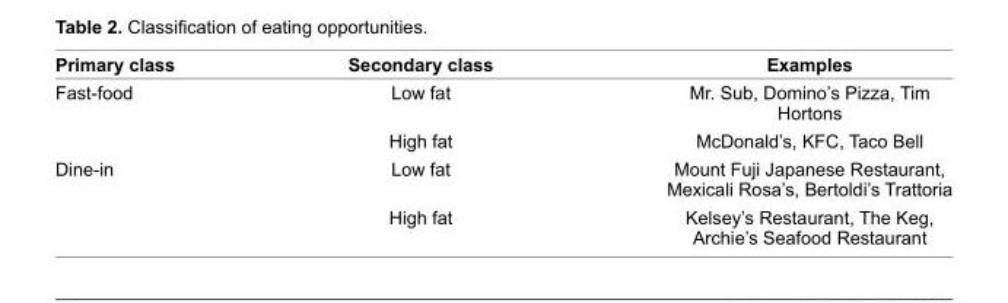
<table><thead><tr><td>Primary class</td><td>Secondary class</td><td>Examples</td></tr></thead><tbody><tr><td rowspan="2">Fast-food</td><td>Low fat</td><td>Mr. Sub, Domino’s Pizza, Tim Hortons</td></tr><tr><td>High fat</td><td>McDonald’s, KFC, Taco Bell</td></tr><tr><td rowspan="2">Dine-in</td><td>Low fat</td><td>Mount Fuji Japanese Restaurant, Mexicali Rosa’s, Bertoldi’s Trattoria</td></tr><tr><td>High fat</td><td>Kelsey’s Restaurant, The Keg, Archie’s Seafood Restaurant</td></tr></tbody></table>